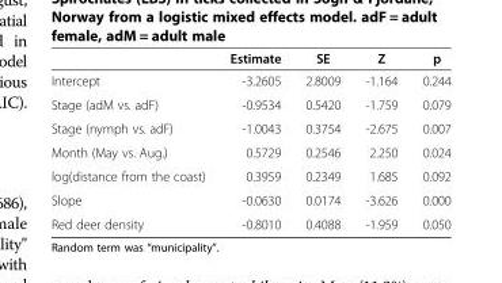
<table><thead><tr><td></td><td>Estimate</td><td>SE</td><td>Z</td><td>p</td></tr></thead><tbody><tr><td>Intercept</td><td>-3.2605</td><td>2.8009</td><td>-1.164</td><td>0.244</td></tr><tr><td>Stage (adM vs. adF)</td><td>-0.9534</td><td>0.5420</td><td>-1.759</td><td>0.079</td></tr><tr><td>Stage (nymph vs. adF)</td><td>-1.0043</td><td>0.3754</td><td>-2.675</td><td>0.007</td></tr><tr><td>Month (May vs. Aug.)</td><td>0.5729</td><td>0.2546</td><td>2.250</td><td>0.024</td></tr><tr><td>log(distance from the coast)</td><td>0.3959</td><td>0.2349</td><td>1.685</td><td>0.092</td></tr><tr><td>Slope</td><td>-0.0630</td><td>0.0174</td><td>-3.626</td><td>0.000</td></tr><tr><td>Red deer density</td><td>-0.8010</td><td>0.4088</td><td>-1.959</td><td>0.050</td></tr></tbody></table>